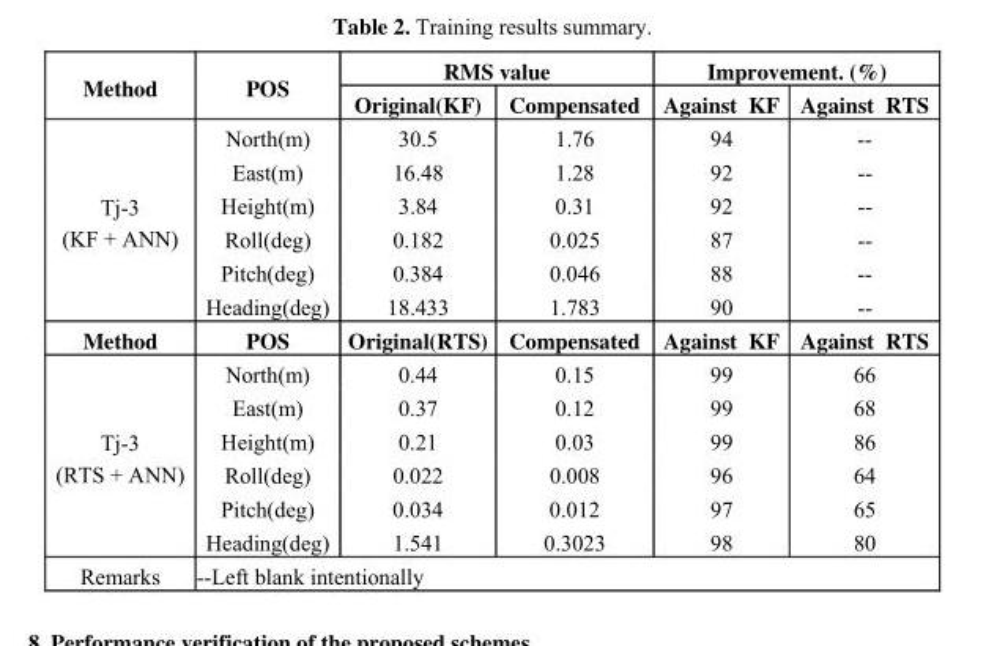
<table><tbody><tr><td rowspan="2">Method</td><td rowspan="2">POS</td><td colspan="2">RMS value</td><td colspan="2">Improvement. (%)</td></tr><tr><td>Original(KF)</td><td>Compensated</td><td>Against KF</td><td>Against RTS</td></tr><tr><td rowspan="6">Tj-3 (KF + ANN)</td><td>North(m)</td><td>30.5</td><td>1.76</td><td>94</td><td>--</td></tr><tr><td>East(m)</td><td>16.48</td><td>1.28</td><td>92</td><td>--</td></tr><tr><td>Height(m)</td><td>3.84</td><td>0.31</td><td>92</td><td>--</td></tr><tr><td>Roll(deg)</td><td>0.182</td><td>0.025</td><td>87</td><td>--</td></tr><tr><td>Pitch(deg)</td><td>0.384</td><td>0.046</td><td>88</td><td>--</td></tr><tr><td>Heading(deg)</td><td>18.433</td><td>1.783</td><td>90</td><td>--</td></tr><tr><td>Method</td><td>POS</td><td>Original(RTS)</td><td>Compensated</td><td>Against KF</td><td>Against RTS</td></tr><tr><td rowspan="6">Tj-3 (RTS + ANN)</td><td>North(m)</td><td>0.44</td><td>0.15</td><td>99</td><td>66</td></tr><tr><td>East(m)</td><td>0.37</td><td>0.12</td><td>99</td><td>68</td></tr><tr><td>Height(m)</td><td>0.21</td><td>0.03</td><td>99</td><td>86</td></tr><tr><td>Roll(deg)</td><td>0.022</td><td>0.008</td><td>96</td><td>64</td></tr><tr><td>Pitch(deg)</td><td>0.034</td><td>0.012</td><td>97</td><td>65</td></tr><tr><td>Heading(deg)</td><td>1.541</td><td>0.3023</td><td>98</td><td>80</td></tr><tr><td>Remarks</td><td colspan="5">--Left blank intentionally</td></tr></tbody></table>